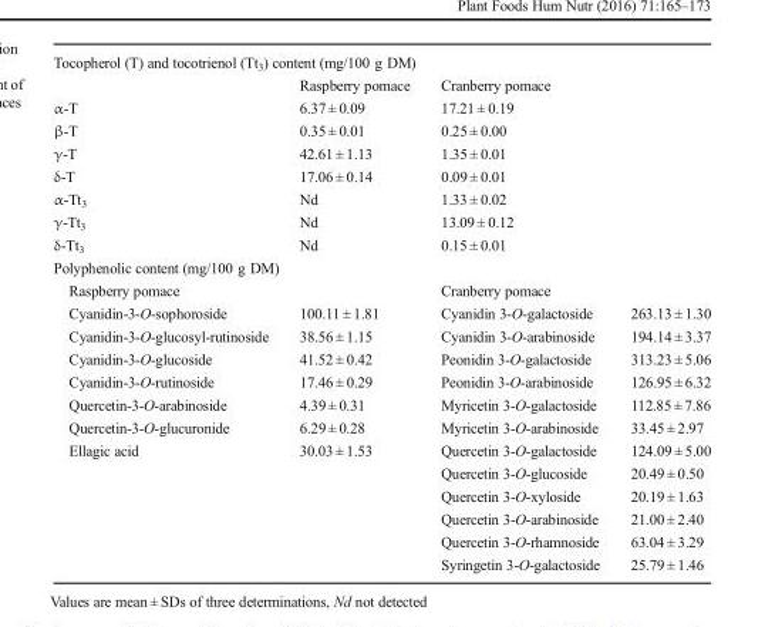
<table><tbody><tr><td colspan="4">Tocopherol (T) and tocotrienol (Tt<sub>3</sub>) content (mg/100 g DM)</td></tr><tr><td></td><td>Raspberry pomace</td><td colspan="2">Cranberry pomace</td></tr><tr><td>α-T</td><td>6.37 ± 0.09</td><td colspan="2">17.21 ± 0.19</td></tr><tr><td>β-T</td><td>0.35 ± 0.01</td><td colspan="2">0.25 ± 0.00</td></tr><tr><td>γ-T</td><td>42.61 ± 1.13</td><td colspan="2">1.35 ± 0.01</td></tr><tr><td>δ-T</td><td>17.06 ± 0.14</td><td colspan="2">0.09 ± 0.01</td></tr><tr><td>α-Tt<sub>3</sub></td><td>Nd</td><td colspan="2">1.33 ± 0.02</td></tr><tr><td>γ-Tt<sub>3</sub></td><td>Nd</td><td colspan="2">13.09 ± 0.12</td></tr><tr><td>δ-Tt<sub>3</sub></td><td>Nd</td><td colspan="2">0.15 ± 0.01</td></tr><tr><td colspan="4">Polyphenolic content (mg/100 g DM)</td></tr><tr><td colspan="2">Raspberry pomace</td><td colspan="2">Cranberry pomace</td></tr><tr><td>Cyanidin-3-O-sophoroside</td><td>100.11 ± 1.81</td><td>Cyanidin 3-O-galactoside</td><td>263.13 ± 1.30</td></tr><tr><td>Cyanidin-3-O-glucosyl-rutinoside</td><td>38.56 ± 1.15</td><td>Cyanidin 3-O-arabinoside</td><td>194.14 ± 3.37</td></tr><tr><td>Cyanidin-3-O-glucoside</td><td>41.52 ± 0.42</td><td>Peonidin 3-O-galactoside</td><td>313.23 ± 5.06</td></tr><tr><td>Cyanidin-3-O-rutinoside</td><td>17.46 ± 0.29</td><td>Peonidin 3-O-arabinoside</td><td>126.95 ± 6.32</td></tr><tr><td>Quercetin-3-O-arabinoside</td><td>4.39 ± 0.31</td><td>Myricetin 3-O-galactoside</td><td>112.85 ± 7.86</td></tr><tr><td>Quercetin-3-O-glucuronide</td><td>6.29 ± 0.28</td><td>Myricetin 3-O-arabinoside</td><td>33.45 ± 2.97</td></tr><tr><td rowspan="6">Ellagic acid</td><td>30.03 ± 1.53</td><td>Quercetin 3-O-galactoside</td><td>124.09 ± 5.00</td></tr><tr><td></td><td>Quercetin 3-O-glucoside</td><td>20.49 ± 0.50</td></tr><tr><td></td><td>Quercetin 3-O-xyloside</td><td>20.19 ± 1.63</td></tr><tr><td></td><td>Quercetin 3-O-arabinoside</td><td>21.00 ± 2.40</td></tr><tr><td></td><td>Quercetin 3-O-rhamnoside</td><td>63.04 ± 3.29</td></tr><tr><td></td><td>Syringetin 3-O-galactoside</td><td>25.79 ± 1.46</td></tr></tbody></table>